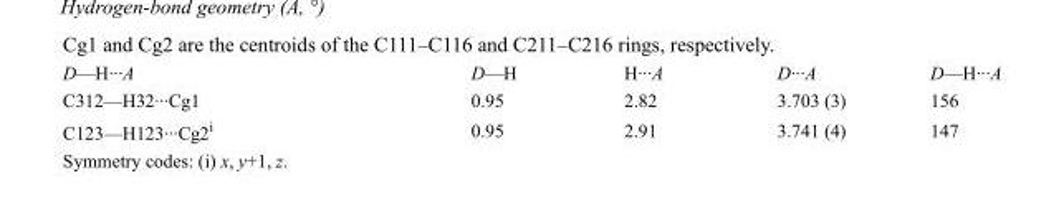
<table><tbody><tr><td>D—H···A</td><td>D—H</td><td>H···A</td><td>D···A</td><td>D—H···A</td></tr><tr><td>C312—H32···Cg1</td><td>0.95</td><td>2.82</td><td>3.703 (3)</td><td>156</td></tr><tr><td>C123—H123···Cg2<sup>i</sup></td><td>0.95</td><td>2.91</td><td>3.741 (4)</td><td>147</td></tr></tbody></table>